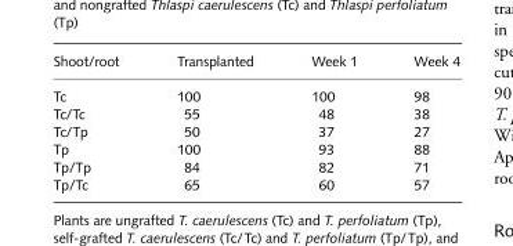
<table><thead><tr><td>Shoot/root</td><td>Transplanted</td><td>Week 1</td><td>Week 4</td></tr></thead><tbody><tr><td>Tc</td><td>100</td><td>100</td><td>98</td></tr><tr><td>Tc/Tc</td><td>55</td><td>48</td><td>38</td></tr><tr><td>Tc/Tp</td><td>50</td><td>37</td><td>27</td></tr><tr><td>Tp</td><td>100</td><td>93</td><td>88</td></tr><tr><td>Tp/Tp</td><td>84</td><td>82</td><td>71</td></tr><tr><td>Tp/Tc</td><td>65</td><td>60</td><td>57</td></tr></tbody></table>